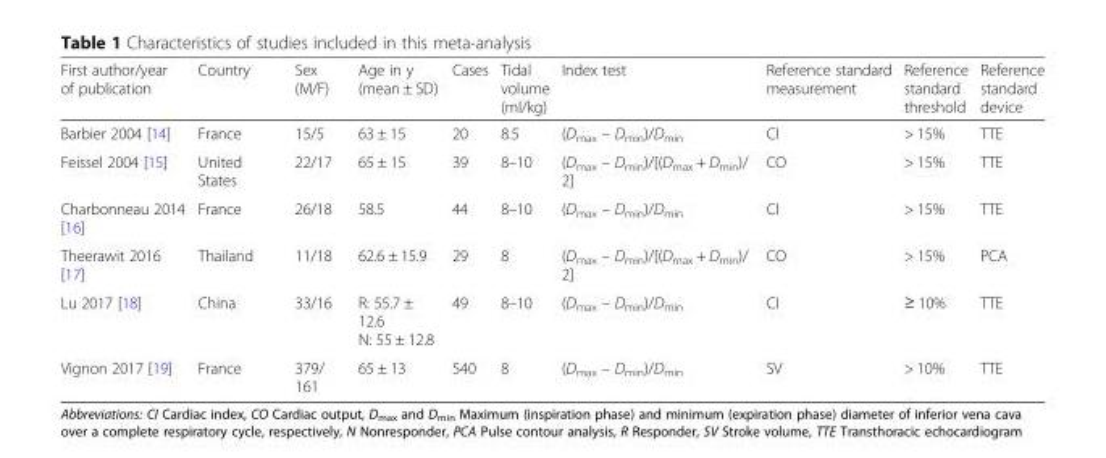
<table><thead><tr><td>First author/year of publication</td><td>Country</td><td>Sex (M/F)</td><td>Age in y (mean ± SD)</td><td>Cases</td><td>Tidal volume (ml/kg)</td><td>Index test</td><td>Reference standard measurement</td><td>Reference standard threshold</td><td>Reference standard device</td></tr></thead><tbody><tr><td>Barbier 2004 [14]</td><td>France</td><td>15/5</td><td>63 ± 15</td><td>20</td><td>8.5</td><td>(D<sub>max</sub> – D<sub>min</sub>)/D<sub>min</sub></td><td>CI</td><td>&gt; 15%</td><td>TTE</td></tr><tr><td>Feissel 2004 [15]</td><td>United States</td><td>22/17</td><td>65 ± 15</td><td>39</td><td>8–10</td><td>(D<sub>max</sub> – D<sub>min</sub>)/[(D<sub>max</sub> + D<sub>min</sub>)/ 2]</td><td>CO</td><td>&gt; 15%</td><td>TTE</td></tr><tr><td>Charbonneau 2014 [16]</td><td>France</td><td>26/18</td><td>58.5</td><td>44</td><td>8–10</td><td>(D<sub>max</sub> – D<sub>min</sub>)/D<sub>min</sub></td><td>CI</td><td>&gt; 15%</td><td>TTE</td></tr><tr><td>Theerawit 2016 [17]</td><td>Thailand</td><td>11/18</td><td>62.6 ± 15.9</td><td>29</td><td>8</td><td>(D<sub>max</sub> – D<sub>min</sub>)/[(D<sub>max</sub> + D<sub>min</sub>)/ 2]</td><td>CO</td><td>&gt; 15%</td><td>PCA</td></tr><tr><td>Lu 2017 [18]</td><td>China</td><td>33/16</td><td>R: 55.7 ± 12.6 N: 55 ± 12.8</td><td>49</td><td>8–10</td><td>(D<sub>max</sub> – D<sub>min</sub>)/D<sub>min</sub></td><td>CI</td><td>≥ 10%</td><td>TTE</td></tr><tr><td>Vignon 2017 [19]</td><td>France</td><td>379/ 161</td><td>65 ± 13</td><td>540</td><td>8</td><td>(D<sub>max</sub> – D<sub>min</sub>)/D<sub>min</sub></td><td>SV</td><td>&gt; 10%</td><td>TTE</td></tr></tbody></table>